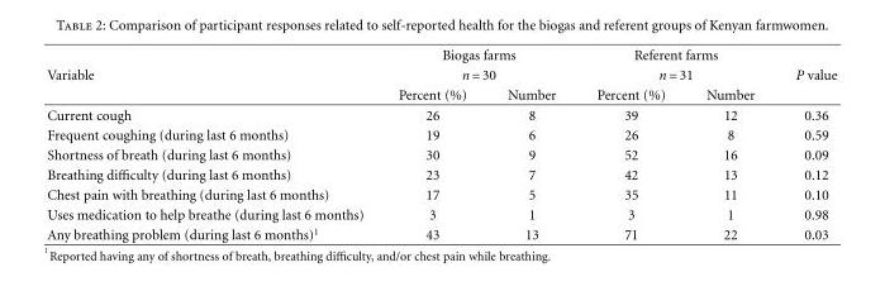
<table><thead><tr><td rowspan="3">Variable</td><td rowspan="2" colspan="2">Biogas farms n = 30</td><td rowspan="2" colspan="2">Referent farms n = 31</td><td rowspan="3">P value</td></tr><tr></tr><tr><td>Percent (%)</td><td>Number</td><td>Percent (%)</td><td>Number</td></tr></thead><tbody><tr><td>Current cough</td><td>26</td><td>8</td><td>39</td><td>12</td><td>0.36</td></tr><tr><td>Frequent coughing (during last 6 months)</td><td>19</td><td>6</td><td>26</td><td>8</td><td>0.59</td></tr><tr><td>Shortness of breath (during last 6 months)</td><td>30</td><td>9</td><td>52</td><td>16</td><td>0.09</td></tr><tr><td>Breathing difficulty (during last 6 months)</td><td>23</td><td>7</td><td>42</td><td>13</td><td>0.12</td></tr><tr><td>Chest pain with breathing (during last 6 months)</td><td>17</td><td>5</td><td>35</td><td>11</td><td>0.10</td></tr><tr><td>Uses medication to help breathe (during last 6 months)</td><td>3</td><td>1</td><td>3</td><td>1</td><td>0.98</td></tr><tr><td>Any breathing problem (during last 6 months)<sup>1</sup></td><td>43</td><td>13</td><td>71</td><td>22</td><td>0.03</td></tr></tbody></table>